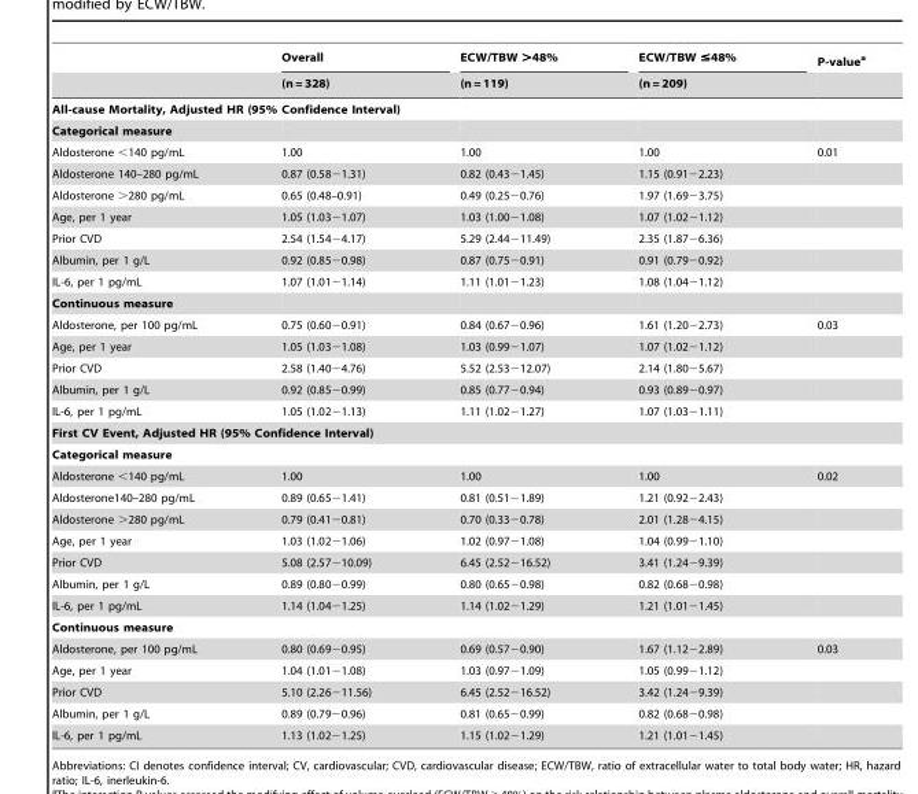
<table><thead><tr><td rowspan="2"></td><td rowspan="2">Overall (n = 328)</td><td rowspan="2">ECW/TBW &gt;48% (n = 119)</td><td rowspan="2">ECW/TBW ≤48% (n = 209)</td><td rowspan="2">P-value<sup>a</sup></td></tr><tr></tr></thead><tbody><tr><td colspan="5">All-cause Mortality, Adjusted HR (95% Confidence Interval)</td></tr><tr><td colspan="5">Categorical measure</td></tr><tr><td>Aldosterone &lt;140 pg/mL</td><td>1.00</td><td>1.00</td><td>1.00</td><td>0.01</td></tr><tr><td>Aldosterone 140–280 pg/mL</td><td>0.87 (0.58−1.31)</td><td>0.82 (0.43−1.45)</td><td>1.15 (0.91−2.23)</td><td></td></tr><tr><td>Aldosterone &gt;280 pg/mL</td><td>0.65 (0.48–0.91)</td><td>0.49 (0.25−0.76)</td><td>1.97 (1.69−3.75)</td><td></td></tr><tr><td>Age, per 1 year</td><td>1.05 (1.03−1.07)</td><td>1.03 (1.00−1.08)</td><td>1.07 (1.02−1.12)</td><td></td></tr><tr><td>Prior CVD</td><td>2.54 (1.54−4.17)</td><td>5.29 (2.44−11.49)</td><td>2.35 (1.87−6.36)</td><td></td></tr><tr><td>Albumin, per 1 g/L</td><td>0.92 (0.85−0.98)</td><td>0.87 (0.75−0.91)</td><td>0.91 (0.79−0.92)</td><td></td></tr><tr><td>IL-6, per 1 pg/mL</td><td>1.07 (1.01−1.14)</td><td>1.11 (1.01−1.23)</td><td>1.08 (1.04−1.12)</td><td></td></tr><tr><td colspan="5">Continuous measure</td></tr><tr><td>Aldosterone, per 100 pg/mL</td><td>0.75 (0.60−0.91)</td><td>0.84 (0.67−0.96)</td><td>1.61 (1.20−2.73)</td><td>0.03</td></tr><tr><td>Age, per 1 year</td><td>1.05 (1.03−1.08)</td><td>1.03 (0.99−1.07)</td><td>1.07 (1.02−1.12)</td><td></td></tr><tr><td>Prior CVD</td><td>2.58 (1.40−4.76)</td><td>5.52 (2.53−12.07)</td><td>2.14 (1.80−5.67)</td><td></td></tr><tr><td>Albumin, per 1 g/L</td><td>0.92 (0.85−0.99)</td><td>0.85 (0.77−0.94)</td><td>0.93 (0.89−0.97)</td><td></td></tr><tr><td>IL-6, per 1 pg/mL</td><td>1.05 (1.02−1.13)</td><td>1.11 (1.02−1.27)</td><td>1.07 (1.03−1.11)</td><td></td></tr><tr><td colspan="5">First CV Event, Adjusted HR (95% Confidence Interval)</td></tr><tr><td colspan="5">Categorical measure</td></tr><tr><td>Aldosterone &lt;140 pg/mL</td><td>1.00</td><td>1.00</td><td>1.00</td><td>0.02</td></tr><tr><td>Aldosterone140–280 pg/mL</td><td>0.89 (0.65−1.41)</td><td>0.81 (0.51−1.89)</td><td>1.21 (0.92−2.43)</td><td></td></tr><tr><td>Aldosterone &gt;280 pg/mL</td><td>0.79 (0.41−0.81)</td><td>0.70 (0.33−0.78)</td><td>2.01 (1.28−4.15)</td><td></td></tr><tr><td>Age, per 1 year</td><td>1.03 (1.02−1.06)</td><td>1.02 (0.97−1.08)</td><td>1.04 (0.99−1.10)</td><td></td></tr><tr><td>Prior CVD</td><td>5.08 (2.57−10.09)</td><td>6.45 (2.52−16.52)</td><td>3.41 (1.24−9.39)</td><td></td></tr><tr><td>Albumin, per 1 g/L</td><td>0.89 (0.80−0.99)</td><td>0.80 (0.65−0.98)</td><td>0.82 (0.68−0.98)</td><td></td></tr><tr><td>IL-6, per 1 pg/mL</td><td>1.14 (1.04−1.25)</td><td>1.14 (1.02−1.29)</td><td>1.21 (1.01−1.45)</td><td></td></tr><tr><td colspan="5">Continuous measure</td></tr><tr><td>Aldosterone, per 100 pg/mL</td><td>0.80 (0.69−0.95)</td><td>0.69 (0.57−0.90)</td><td>1.67 (1.12−2.89)</td><td>0.03</td></tr><tr><td>Age, per 1 year</td><td>1.04 (1.01−1.08)</td><td>1.03 (0.97−1.09)</td><td>1.05 (0.99−1.12)</td><td></td></tr><tr><td>Prior CVD</td><td>5.10 (2.26−11.56)</td><td>6.45 (2.52−16.52)</td><td>3.42 (1.24−9.39)</td><td></td></tr><tr><td>Albumin, per 1 g/L</td><td>0.89 (0.79−0.96)</td><td>0.81 (0.65−0.99)</td><td>0.82 (0.68−0.98)</td><td></td></tr><tr><td>IL-6, per 1 pg/mL</td><td>1.13 (1.02−1.25)</td><td>1.15 (1.02−1.29)</td><td>1.21 (1.01−1.45)</td><td></td></tr></tbody></table>